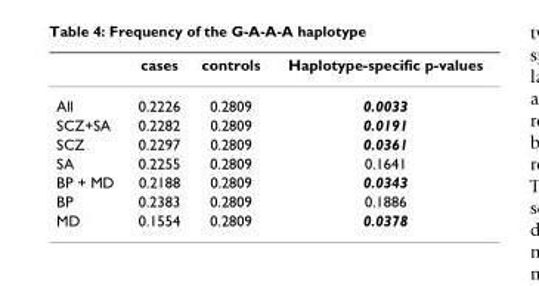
<table><thead><tr><td></td><td>cases</td><td>controls</td><td>Haplotype-specific p-values</td></tr></thead><tbody><tr><td>All</td><td>0.2226</td><td>0.2809</td><td>0.0033</td></tr><tr><td>SCZ+SA</td><td>0.2282</td><td>0.2809</td><td>0.0191</td></tr><tr><td>SCZ</td><td>0.2297</td><td>0.2809</td><td>0.0361</td></tr><tr><td>SA</td><td>0.2255</td><td>0.2809</td><td>0.1641</td></tr><tr><td>BP + MD</td><td>0.2188</td><td>0.2809</td><td>0.0343</td></tr><tr><td>BP</td><td>0.2383</td><td>0.2809</td><td>0.1886</td></tr><tr><td>MD</td><td>0.1554</td><td>0.2809</td><td>0.0378</td></tr></tbody></table>